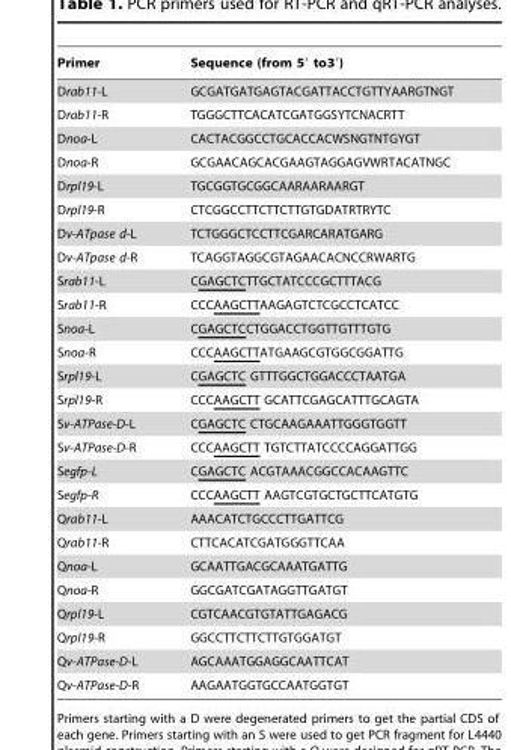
<table><thead><tr><td>Primer</td><td>Sequence (from 5′ to3′)</td></tr></thead><tbody><tr><td>Drab11-L</td><td>GCGATGATGAGTACGATTACCTGTTYAARGTNGT</td></tr><tr><td>Drab11-R</td><td>TGGGCTTCACATCGATGGSYTCNACRTT</td></tr><tr><td>Dnoa-L</td><td>CACTACGGCCTGCACCACWSNGTNTGYGT</td></tr><tr><td>Dnoa-R</td><td>GCGAACAGCACGAAGTAGGAGVWRTACATNGC</td></tr><tr><td>Drpl19-L</td><td>TGCGGTGCGGCAARAARAARGT</td></tr><tr><td>Drpl19-R</td><td>CTCGGCCTTCTTCTTGTGDATRTRYTC</td></tr><tr><td>Dv-ATpase d-L</td><td>TCTGGGCTCCTTCGARCARATGARG</td></tr><tr><td>Dv-ATpase d-R</td><td>TCAGGTAGGCGTAGAACACNCCRWARTG</td></tr><tr><td>Srab11-L</td><td>CGAGCTCTTGCTATCCCGCTTTACG</td></tr><tr><td>Srab11-R</td><td>CCCAAGCTTAAGAGTCTCGCCTCATCC</td></tr><tr><td>Snoa-L</td><td>CGAGCTCCTGGACCTGGTTGTTTGTG</td></tr><tr><td>Snoa-R</td><td>CCCAAGCTTATGAAGCGTGGCGGATTG</td></tr><tr><td>Srpl19-L</td><td>CGAGCTC GTTTGGCTGGACCCTAATGA</td></tr><tr><td>Srpl19-R</td><td>CCCAAGCTT GCATTCGAGCATTTGCAGTA</td></tr><tr><td>Sv-ATPase-D-L</td><td>CGAGCTC CTGCAAGAAATTGGGTGGTT</td></tr><tr><td>Sv-ATPase-D-R</td><td>CCCAAGCTT TGTCTTATCCCCAGGATTGG</td></tr><tr><td>Segfp-L</td><td>CGAGCTC ACGTAAACGGCCACAAGTTC</td></tr><tr><td>Segfp-R</td><td>CCCAAGCTT AAGTCGTGCTGCTTCATGTG</td></tr><tr><td>Qrab11-L</td><td>AAACATCTGCCCTTGATTCG</td></tr><tr><td>Qrab11-R</td><td>CTTCACATCGATGGGTTCAA</td></tr><tr><td>Qnoa-L</td><td>GCAATTGACGCAAATGATTG</td></tr><tr><td>Qnoa-R</td><td>GGCGATCGATAGGTTGATGT</td></tr><tr><td>Qrpl19-L</td><td>CGTCAACGTGTATTGAGACG</td></tr><tr><td>Qrpl19-R</td><td>GGCCTTCTTCTTGTGGATGT</td></tr><tr><td>Qv-ATPase-D-L</td><td>AGCAAATGGAGGCAATTCAT</td></tr><tr><td>Qv-ATPase-D-R</td><td>AAGAATGGTGCCAATGGTGT</td></tr></tbody></table>